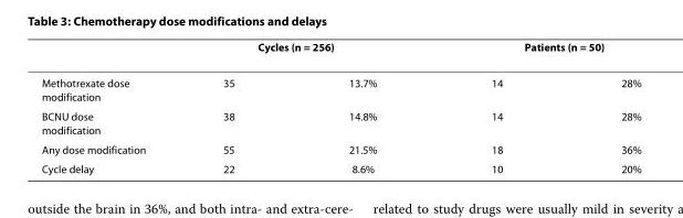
<table><thead><tr><td rowspan="2">Methotrexate dose modification</td><td colspan="2">Cycles (n = 256)</td><td colspan="2">Patients (n = 50)</td></tr><tr><td>35</td><td>13.7%</td><td>14</td><td>28%</td></tr></thead><tbody><tr><td>BCNU dose modification</td><td>38</td><td>14.8%</td><td>14</td><td>28%</td></tr><tr><td>Any dose modification</td><td>55</td><td>21.5%</td><td>18</td><td>36%</td></tr><tr><td>Cycle delay</td><td>22</td><td>8.6%</td><td>10</td><td>20%</td></tr></tbody></table>